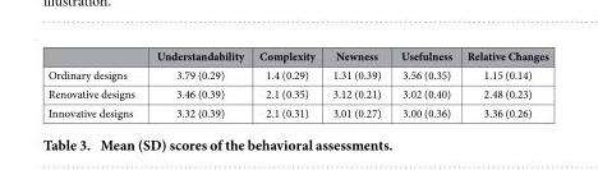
<table><thead><tr><td></td><td>Understandability</td><td>Complexity</td><td>Newness</td><td>Usefulness</td><td>Relative Changes</td></tr></thead><tbody><tr><td>Ordinary designs</td><td>3.79 (0.29)</td><td>1.4 (0.29)</td><td>1.31 (0.39)</td><td>3.56 (0.35)</td><td>1.15 (0.14)</td></tr><tr><td>Renovative designs</td><td>3.46 (0.39)</td><td>2.1 (0.35)</td><td>3.12 (0.21)</td><td>3.02 (0.40)</td><td>2.48 (0.23)</td></tr><tr><td>Innovative designs</td><td>3.32 (0.39)</td><td>2.1 (0.31)</td><td>3.01 (0.27)</td><td>3.00 (0.36)</td><td>3.36 (0.26)</td></tr></tbody></table>